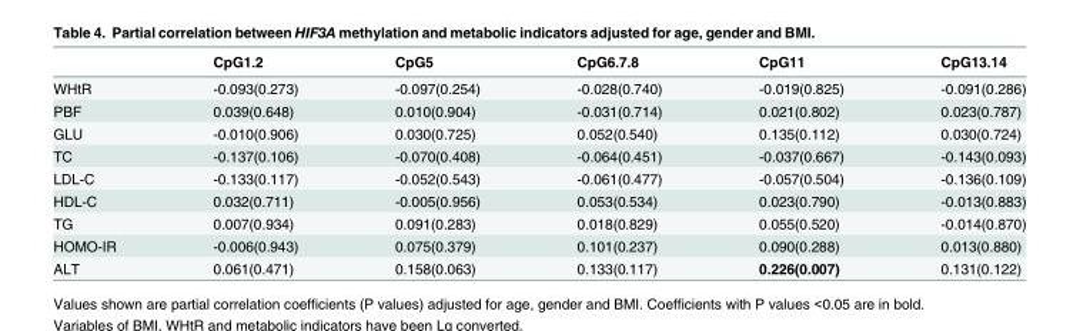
<table><thead><tr><td></td><td>CpG1.2</td><td>CpG5</td><td>CpG6.7.8</td><td>CpG11</td><td>CpG13.14</td></tr></thead><tbody><tr><td>WHtR</td><td>-0.093(0.273)</td><td>-0.097(0.254)</td><td>-0.028(0.740)</td><td>-0.019(0.825)</td><td>-0.091(0.286)</td></tr><tr><td>PBF</td><td>0.039(0.648)</td><td>0.010(0.904)</td><td>-0.031(0.714)</td><td>0.021(0.802)</td><td>0.023(0.787)</td></tr><tr><td>GLU</td><td>-0.010(0.906)</td><td>0.030(0.725)</td><td>0.052(0.540)</td><td>0.135(0.112)</td><td>0.030(0.724)</td></tr><tr><td>TC</td><td>-0.137(0.106)</td><td>-0.070(0.408)</td><td>-0.064(0.451)</td><td>-0.037(0.667)</td><td>-0.143(0.093)</td></tr><tr><td>LDL-C</td><td>-0.133(0.117)</td><td>-0.052(0.543)</td><td>-0.061(0.477)</td><td>-0.057(0.504)</td><td>-0.136(0.109)</td></tr><tr><td>HDL-C</td><td>0.032(0.711)</td><td>-0.005(0.956)</td><td>0.053(0.534)</td><td>0.023(0.790)</td><td>-0.013(0.883)</td></tr><tr><td>TG</td><td>0.007(0.934)</td><td>0.091(0.283)</td><td>0.018(0.829)</td><td>0.055(0.520)</td><td>-0.014(0.870)</td></tr><tr><td>HOMO-IR</td><td>-0.006(0.943)</td><td>0.075(0.379)</td><td>0.101(0.237)</td><td>0.090(0.288)</td><td>0.013(0.880)</td></tr><tr><td>ALT</td><td>0.061(0.471)</td><td>0.158(0.063)</td><td>0.133(0.117)</td><td>0.226(0.007)</td><td>0.131(0.122)</td></tr></tbody></table>